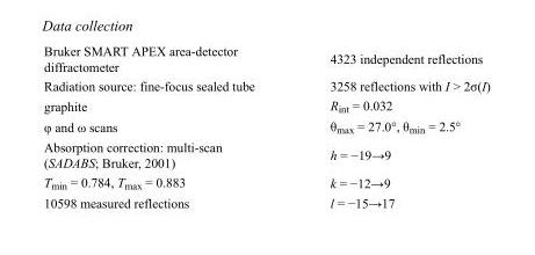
<table><tbody><tr><td>Bruker SMART APEX area-detector diffractometer</td><td>4323 independent reflections</td></tr><tr><td>Radiation source: fine-focus sealed tube</td><td>3258 reflections with I &gt; 2σ(I)</td></tr><tr><td>graphite</td><td>R<sub>int</sub> = 0.032</td></tr><tr><td>φ and ω scans</td><td>θ<sub>max</sub> = 27.0°, θ<sub>min</sub> = 2.5°</td></tr><tr><td>Absorption correction: multi-scan (SADABS; Bruker, 2001)</td><td>h = −19→9</td></tr><tr><td>T<sub>min</sub> = 0.784, T<sub>max</sub> = 0.883</td><td>k = −12→9</td></tr><tr><td>10598 measured reflections</td><td>l = −15→17</td></tr></tbody></table>